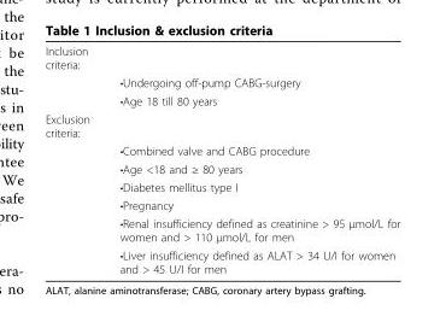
<table><tbody><tr><td colspan="2">Inclusion criteria:</td></tr><tr><td></td><td>•Undergoing off-pump CABG-surgery</td></tr><tr><td></td><td>•Age 18 till 80 years</td></tr><tr><td colspan="2">Exclusion criteria:</td></tr><tr><td></td><td>•Combined valve and CABG procedure</td></tr><tr><td></td><td>•Age &lt;18 and ≥ 80 years</td></tr><tr><td></td><td>•Diabetes mellitus type I</td></tr><tr><td></td><td>•Pregnancy</td></tr><tr><td></td><td>•Renal insufficiency defined as creatinine &gt; 95 μmol/L for women and &gt; 110 μmol/L for men</td></tr><tr><td></td><td>•Liver insufficiency defined as ALAT &gt; 34 U/I for women and &gt; 45 U/I for men</td></tr></tbody></table>